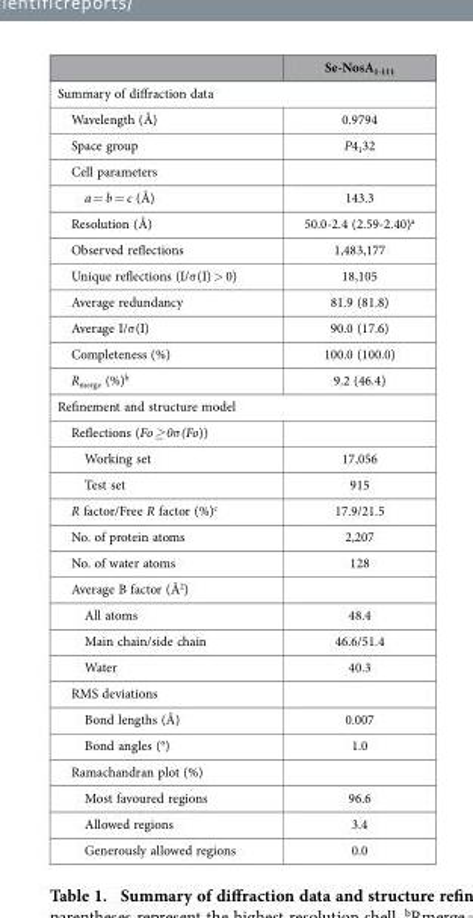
<table><thead><tr><td></td><td>Se-NosA<sub>1-111</sub></td></tr></thead><tbody><tr><td colspan="2">Summary of diffraction data</td></tr><tr><td>Wavelength (Å)</td><td>0.9794</td></tr><tr><td>Space group</td><td>P4<sub>1</sub>32</td></tr><tr><td colspan="2">Cell parameters</td></tr><tr><td>a = b = c (Å)</td><td>143.3</td></tr><tr><td>Resolution (Å)</td><td>50.0-2.4 (2.59-2.40)<sup>a</sup></td></tr><tr><td>Observed reflections</td><td>1,483,177</td></tr><tr><td>Unique reflections (I/σ (I) &gt; 0)</td><td>18,105</td></tr><tr><td>Average redundancy</td><td>81.9 (81.8)</td></tr><tr><td>Average I/σ (I)</td><td>90.0 (17.6)</td></tr><tr><td>Completeness (%)</td><td>100.0 (100.0)</td></tr><tr><td>R<sub>merge</sub> (%)<sup>b</sup></td><td>9.2 (46.4)</td></tr><tr><td colspan="2">Refinement and structure model</td></tr><tr><td colspan="2">Reflections (Fo ≥ 0σ (Fo))</td></tr><tr><td>Working set</td><td>17,056</td></tr><tr><td>Test set</td><td>915</td></tr><tr><td>R factor/Free R factor (%)<sup>c</sup></td><td>17.9/21.5</td></tr><tr><td>No. of protein atoms</td><td>2,207</td></tr><tr><td>No. of water atoms</td><td>128</td></tr><tr><td colspan="2">Average B factor (Å<sup>2</sup>)</td></tr><tr><td>All atoms</td><td>48.4</td></tr><tr><td>Main chain/side chain</td><td>46.6/51.4</td></tr><tr><td>Water</td><td>40.3</td></tr><tr><td colspan="2">RMS deviations</td></tr><tr><td>Bond lengths (Å)</td><td>0.007</td></tr><tr><td>Bond angles (°)</td><td>1.0</td></tr><tr><td colspan="2">Ramachandran plot (%)</td></tr><tr><td>Most favoured regions</td><td>96.6</td></tr><tr><td>Allowed regions</td><td>3.4</td></tr><tr><td>Generously allowed regions</td><td>0.0</td></tr></tbody></table>